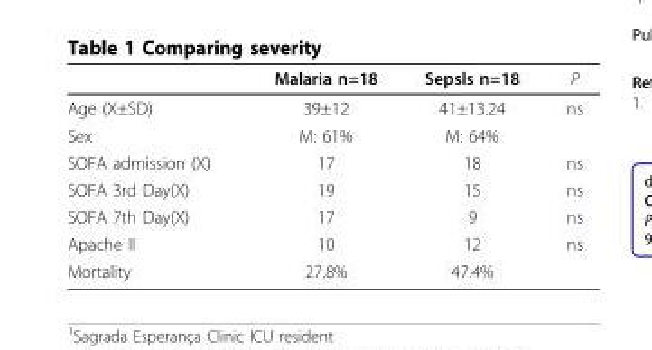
<table><thead><tr><td></td><td>Malaria n=18</td><td>Sepsls n=18</td><td>P</td></tr></thead><tbody><tr><td>Age (X±SD)</td><td>39±12</td><td>41±13.24</td><td>ns</td></tr><tr><td>Sex</td><td>M: 61%</td><td>M: 64%</td><td></td></tr><tr><td>SOFA admission (X)</td><td>17</td><td>18</td><td>ns</td></tr><tr><td>SOFA 3rd Day(X)</td><td>19</td><td>15</td><td>ns</td></tr><tr><td>SOFA 7th Day(X)</td><td>17</td><td>9</td><td>ns</td></tr><tr><td>Apache II</td><td>10</td><td>12</td><td>ns</td></tr><tr><td>Mortality</td><td>27.8%</td><td>47.4%</td><td></td></tr></tbody></table>